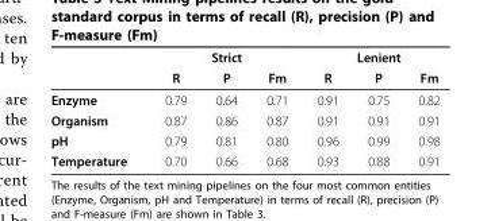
<table><thead><tr><td rowspan="2"></td><td colspan="3">Strict</td><td colspan="3">Lenient</td></tr><tr><td>R</td><td>P</td><td>Fm</td><td>R</td><td>P</td><td>Fm</td></tr></thead><tbody><tr><td>Enzyme</td><td>0.79</td><td>0.64</td><td>0.71</td><td>0.91</td><td>0.75</td><td>0.82</td></tr><tr><td>Organism</td><td>0.87</td><td>0.86</td><td>0.87</td><td>0.91</td><td>0.91</td><td>0.91</td></tr><tr><td>pH</td><td>0.79</td><td>0.81</td><td>0.80</td><td>0.96</td><td>0.99</td><td>0.98</td></tr><tr><td>Temperature</td><td>0.70</td><td>0.66</td><td>0.68</td><td>0.93</td><td>0.88</td><td>0.91</td></tr></tbody></table>